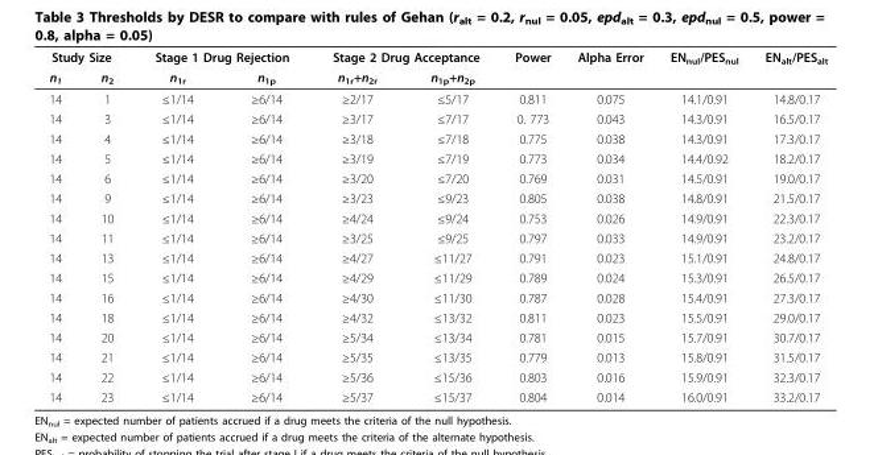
<table><thead><tr><td colspan="2">Study Size</td><td colspan="2">Stage 1 Drug Rejection</td><td colspan="2">Stage 2 Drug Acceptance</td><td rowspan="2">Power</td><td rowspan="2">Alpha Error</td><td rowspan="2">EN<sub>nul</sub>/PES<sub>nul</sub></td><td rowspan="2">EN<sub>alt</sub>/PES<sub>alt</sub></td></tr><tr><td>n<sub>1</sub></td><td>n<sub>2</sub></td><td>n<sub>1r</sub></td><td>n<sub>1p</sub></td><td>n<sub>1r</sub>+n<sub>2r</sub></td><td>n<sub>1p</sub>+n<sub>2p</sub></td></tr></thead><tbody><tr><td>14</td><td>1</td><td>≤1/14</td><td>≥6/14</td><td>≥2/17</td><td>≤5/17</td><td>0.811</td><td>0.075</td><td>14.1/0.91</td><td>14.8/0.17</td></tr><tr><td>14</td><td>3</td><td>≤1/14</td><td>≥6/14</td><td>≥3/17</td><td>≤7/17</td><td>0. 773</td><td>0.043</td><td>14.3/0.91</td><td>16.5/0.17</td></tr><tr><td>14</td><td>4</td><td>≤1/14</td><td>≥6/14</td><td>≥3/18</td><td>≤7/18</td><td>0.775</td><td>0.038</td><td>14.3/0.91</td><td>17.3/0.17</td></tr><tr><td>14</td><td>5</td><td>≤1/14</td><td>≥6/14</td><td>≥3/19</td><td>≤7/19</td><td>0.773</td><td>0.034</td><td>14.4/0.92</td><td>18.2/0.17</td></tr><tr><td>14</td><td>6</td><td>≤1/14</td><td>≥6/14</td><td>≥3/20</td><td>≤7/20</td><td>0.769</td><td>0.031</td><td>14.5/0.91</td><td>19.0/0.17</td></tr><tr><td>14</td><td>9</td><td>≤1/14</td><td>≥6/14</td><td>≥3/23</td><td>≤9/23</td><td>0.805</td><td>0.038</td><td>14.8/0.91</td><td>21.5/0.17</td></tr><tr><td>14</td><td>10</td><td>≤1/14</td><td>≥6/14</td><td>≥4/24</td><td>≤9/24</td><td>0.753</td><td>0.026</td><td>14.9/0.91</td><td>22.3/0.17</td></tr><tr><td>14</td><td>11</td><td>≤1/14</td><td>≥6/14</td><td>≥3/25</td><td>≤9/25</td><td>0.797</td><td>0.033</td><td>14.9/0.91</td><td>23.2/0.17</td></tr><tr><td>14</td><td>13</td><td>≤1/14</td><td>≥6/14</td><td>≥4/27</td><td>≤11/27</td><td>0.791</td><td>0.023</td><td>15.1/0.91</td><td>24.8/0.17</td></tr><tr><td>14</td><td>15</td><td>≤1/14</td><td>≥6/14</td><td>≥4/29</td><td>≤11/29</td><td>0.789</td><td>0.024</td><td>15.3/0.91</td><td>26.5/0.17</td></tr><tr><td>14</td><td>16</td><td>≤1/14</td><td>≥6/14</td><td>≥4/30</td><td>≤11/30</td><td>0.787</td><td>0.028</td><td>15.4/0.91</td><td>27.3/0.17</td></tr><tr><td>14</td><td>18</td><td>≤1/14</td><td>≥6/14</td><td>≥4/32</td><td>≤13/32</td><td>0.811</td><td>0.023</td><td>15.5/0.91</td><td>29.0/0.17</td></tr><tr><td>14</td><td>20</td><td>≤1/14</td><td>≥6/14</td><td>≥5/34</td><td>≤13/34</td><td>0.781</td><td>0.015</td><td>15.7/0.91</td><td>30.7/0.17</td></tr><tr><td>14</td><td>21</td><td>≤1/14</td><td>≥6/14</td><td>≥5/35</td><td>≤13/35</td><td>0.779</td><td>0.013</td><td>15.8/0.91</td><td>31.5/0.17</td></tr><tr><td>14</td><td>22</td><td>≤1/14</td><td>≥6/14</td><td>≥5/36</td><td>≤15/36</td><td>0.803</td><td>0.016</td><td>15.9/0.91</td><td>32.3/0.17</td></tr><tr><td>14</td><td>23</td><td>≤1/14</td><td>≥6/14</td><td>≥5/37</td><td>≤15/37</td><td>0.804</td><td>0.014</td><td>16.0/0.91</td><td>33.2/0.17</td></tr></tbody></table>